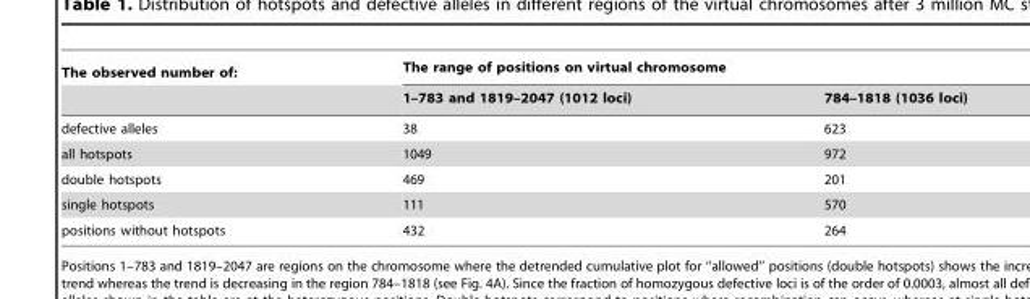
<table><thead><tr><td rowspan="2">The observed number of:</td><td colspan="2">The range of positions on virtual chromosome</td></tr><tr><td>1–783 and 1819–2047 (1012 loci)</td><td>784–1818 (1036 loci)</td></tr></thead><tbody><tr><td>defective alleles</td><td>38</td><td>623</td></tr><tr><td>all hotspots</td><td>1049</td><td>972</td></tr><tr><td>double hotspots</td><td>469</td><td>201</td></tr><tr><td>single hotspots</td><td>111</td><td>570</td></tr><tr><td>positions without hotspots</td><td>432</td><td>264</td></tr></tbody></table>